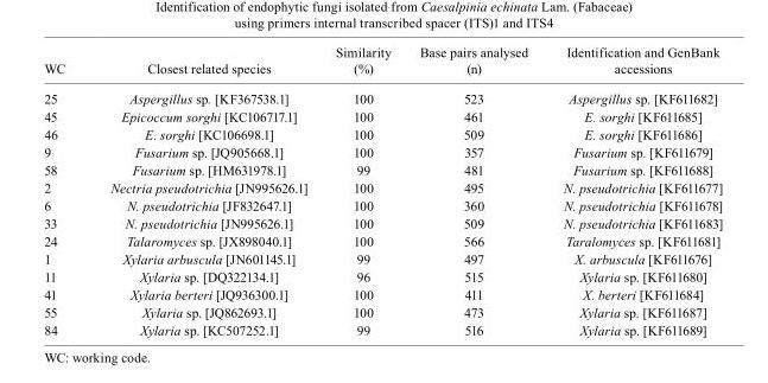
<table><thead><tr><td>WC</td><td>Closest related species</td><td>Similarity (%)</td><td>Base pairs analysed (n)</td><td>Identification and GenBank accessions</td></tr></thead><tbody><tr><td>25</td><td>Aspergillus sp. [KF367538.1]</td><td>100</td><td>523</td><td>Aspergillus sp. [KF611682]</td></tr><tr><td>45</td><td>Epicoccum sorghi [KC106717.1]</td><td>100</td><td>461</td><td>E. sorghi [KF611685]</td></tr><tr><td>46</td><td>E. sorghi [KC106698.1]</td><td>100</td><td>509</td><td>E. sorghi [KF611686]</td></tr><tr><td>9</td><td>Fusarium sp. [JQ905668.1]</td><td>100</td><td>357</td><td>Fusarium sp. [KF611679]</td></tr><tr><td>58</td><td>Fusarium sp. [HM631978.1]</td><td>99</td><td>481</td><td>Fusarium sp. [KF611688]</td></tr><tr><td>2</td><td>Nectria pseudotrichia [JN995626.1]</td><td>100</td><td>495</td><td>N. pseudotrichia [KF611677]</td></tr><tr><td>6</td><td>N. pseudotrichia [JF832647.1]</td><td>100</td><td>360</td><td>N. pseudotrichia [KF611678]</td></tr><tr><td>33</td><td>N. pseudotrichia [JN995626.1]</td><td>100</td><td>509</td><td>N. pseudotrichia [KF611683]</td></tr><tr><td>24</td><td>Talaromyces sp. [JX898040.1]</td><td>100</td><td>566</td><td>Taralomyces sp. [KF611681]</td></tr><tr><td>1</td><td>Xylaria arbuscula [JN601145.1]</td><td>99</td><td>497</td><td>X. arbuscula [KF611676]</td></tr><tr><td>11</td><td>Xylaria sp. [DQ322134.1]</td><td>96</td><td>515</td><td>Xylaria sp. [KF611680]</td></tr><tr><td>41</td><td>Xylaria berteri [JQ936300.1]</td><td>100</td><td>411</td><td>X. berteri [KF611684]</td></tr><tr><td>55</td><td>Xylaria sp. [JQ862693.1]</td><td>100</td><td>473</td><td>Xylaria sp. [KF611687]</td></tr><tr><td>84</td><td>Xylaria sp. [KC507252.1]</td><td>99</td><td>516</td><td>Xylaria sp. [KF611689]</td></tr></tbody></table>